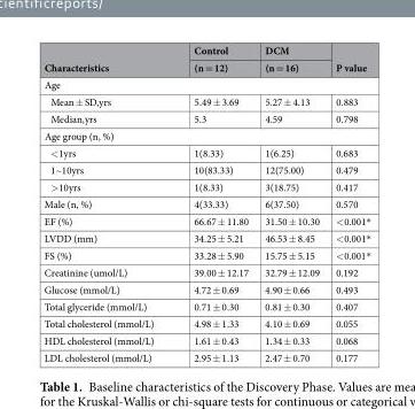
<table><thead><tr><td rowspan="2">Characteristics</td><td rowspan="2">Control (n = 12)</td><td rowspan="2">DCM (n = 16)</td><td rowspan="2">P value</td></tr><tr></tr></thead><tbody><tr><td colspan="4">Age</td></tr><tr><td>Mean ± SD,yrs</td><td>5.49 ± 3.69</td><td>5.27 ± 4.13</td><td>0.883</td></tr><tr><td>Median,yrs</td><td>5.3</td><td>4.59</td><td>0.798</td></tr><tr><td colspan="4">Age group (n, %)</td></tr><tr><td>&lt;1yrs</td><td>1(8.33)</td><td>1(6.25)</td><td>0.683</td></tr><tr><td>1~10yrs</td><td>10(83.33)</td><td>12(75.00)</td><td>0.479</td></tr><tr><td>&gt;10yrs</td><td>1(8.33)</td><td>3(18.75)</td><td>0.417</td></tr><tr><td>Male (n, %)</td><td>4(33.33)</td><td>6(37.50)</td><td>0.570</td></tr><tr><td>EF (%)</td><td>66.67 ± 11.80</td><td>31.50 ± 10.30</td><td>&lt;0.001*</td></tr><tr><td>LVDD (mm)</td><td>34.25 ± 5.21</td><td>46.53 ± 8.45</td><td>&lt;0.001*</td></tr><tr><td>FS (%)</td><td>33.28 ± 5.90</td><td>15.75 ± 5.15</td><td>&lt;0.001*</td></tr><tr><td>Creatinine (umol/L)</td><td>39.00 ± 12.17</td><td>32.79 ± 12.09</td><td>0.192</td></tr><tr><td>Glucose (mmol/L)</td><td>4.72 ± 0.69</td><td>4.90 ± 0.66</td><td>0.493</td></tr><tr><td>Total glyceride (mmol/L)</td><td>0.71 ± 0.30</td><td>0.81 ± 0.30</td><td>0.407</td></tr><tr><td>Total cholesterol (mmol/L)</td><td>4.98 ± 1.33</td><td>4.10 ± 0.69</td><td>0.055</td></tr><tr><td>HDL cholesterol (mmol/L)</td><td>1.61 ± 0.43</td><td>1.34 ± 0.33</td><td>0.068</td></tr><tr><td>LDL cholesterol (mmol/L)</td><td>2.95 ± 1.13</td><td>2.47 ± 0.70</td><td>0.177</td></tr></tbody></table>